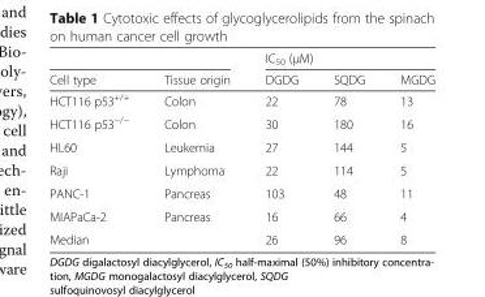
<table><thead><tr><td rowspan="2">Cell type</td><td rowspan="2">Tissue origin</td><td colspan="3">IC<sub>50</sub> (μM)</td></tr><tr><td>DGDG</td><td>SQDG</td><td>MGDG</td></tr></thead><tbody><tr><td>HCT116 p53<sup>+/+</sup></td><td>Colon</td><td>22</td><td>78</td><td>13</td></tr><tr><td>HCT116 p53<sup>−/−</sup></td><td>Colon</td><td>30</td><td>180</td><td>16</td></tr><tr><td>HL60</td><td>Leukemia</td><td>27</td><td>144</td><td>5</td></tr><tr><td>Raji</td><td>Lymphoma</td><td>22</td><td>114</td><td>5</td></tr><tr><td>PANC-1</td><td>Pancreas</td><td>103</td><td>48</td><td>11</td></tr><tr><td>MIAPaCa-2</td><td>Pancreas</td><td>16</td><td>66</td><td>4</td></tr><tr><td>Median</td><td></td><td>26</td><td>96</td><td>8</td></tr></tbody></table>